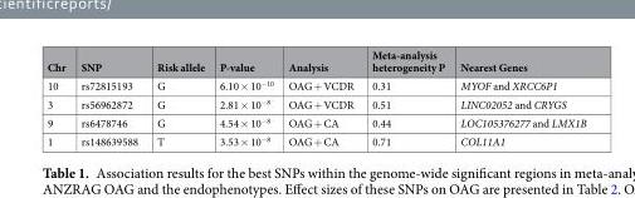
<table><thead><tr><td>Chr</td><td>SNP</td><td>Risk allele</td><td>P-value</td><td>Analysis</td><td>Meta-analysis heterogeneity P</td><td>Nearest Genes</td></tr></thead><tbody><tr><td>10</td><td>rs72815193</td><td>G</td><td>6.10 × 10<sup>−10</sup></td><td>OAG + VCDR</td><td>0.31</td><td>MYOF and XRCC6P1</td></tr><tr><td>3</td><td>rs56962872</td><td>G</td><td>2.81 × 10<sup>−8</sup></td><td>OAG + VCDR</td><td>0.51</td><td>LINC02052 and CRYGS</td></tr><tr><td>9</td><td>rs6478746</td><td>G</td><td>4.54 × 10<sup>−8</sup></td><td>OAG + CA</td><td>0.44</td><td>LOC105376277 and LMX1B</td></tr><tr><td>1</td><td>rs148639588</td><td>T</td><td>3.53 × 10<sup>−8</sup></td><td>OAG + CA</td><td>0.71</td><td>COL11A1</td></tr></tbody></table>